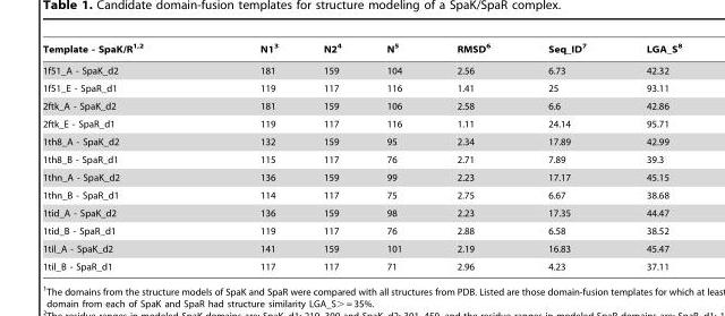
<table><thead><tr><td>Template - SpaK/R<sup>1,</sup>2</td><td>N1<sup>3</sup></td><td>N2<sup>4</sup></td><td>N<sup>5</sup></td><td>RMSD<sup>6</sup></td><td>Seq_ID<sup>7</sup></td><td>LGA_S<sup>8</sup></td></tr></thead><tbody><tr><td>1f51_A - SpaK_d2</td><td>181</td><td>159</td><td>104</td><td>2.56</td><td>6.73</td><td>42.32</td></tr><tr><td>1f51_E - SpaR_d1</td><td>119</td><td>117</td><td>116</td><td>1.41</td><td>25</td><td>93.11</td></tr><tr><td>2ftk_A - SpaK_d2</td><td>181</td><td>159</td><td>106</td><td>2.58</td><td>6.6</td><td>42.86</td></tr><tr><td>2ftk_E - SpaR_d1</td><td>119</td><td>117</td><td>116</td><td>1.11</td><td>24.14</td><td>95.71</td></tr><tr><td>1th8_A - SpaK_d2</td><td>132</td><td>159</td><td>95</td><td>2.34</td><td>17.89</td><td>42.99</td></tr><tr><td>1th8_B - SpaR_d1</td><td>115</td><td>117</td><td>76</td><td>2.71</td><td>7.89</td><td>39.3</td></tr><tr><td>1thn_A - SpaK_d2</td><td>136</td><td>159</td><td>99</td><td>2.23</td><td>17.17</td><td>45.15</td></tr><tr><td>1thn_B - SpaR_d1</td><td>114</td><td>117</td><td>75</td><td>2.75</td><td>6.67</td><td>38.68</td></tr><tr><td>1tid_A - SpaK_d2</td><td>136</td><td>159</td><td>98</td><td>2.23</td><td>17.35</td><td>44.47</td></tr><tr><td>1tid_B - SpaR_d1</td><td>119</td><td>117</td><td>76</td><td>2.88</td><td>6.58</td><td>38.52</td></tr><tr><td>1til_A - SpaK_d2</td><td>141</td><td>159</td><td>101</td><td>2.19</td><td>16.83</td><td>45.47</td></tr><tr><td>1til_B - SpaR_d1</td><td>117</td><td>117</td><td>71</td><td>2.96</td><td>4.23</td><td>37.11</td></tr></tbody></table>